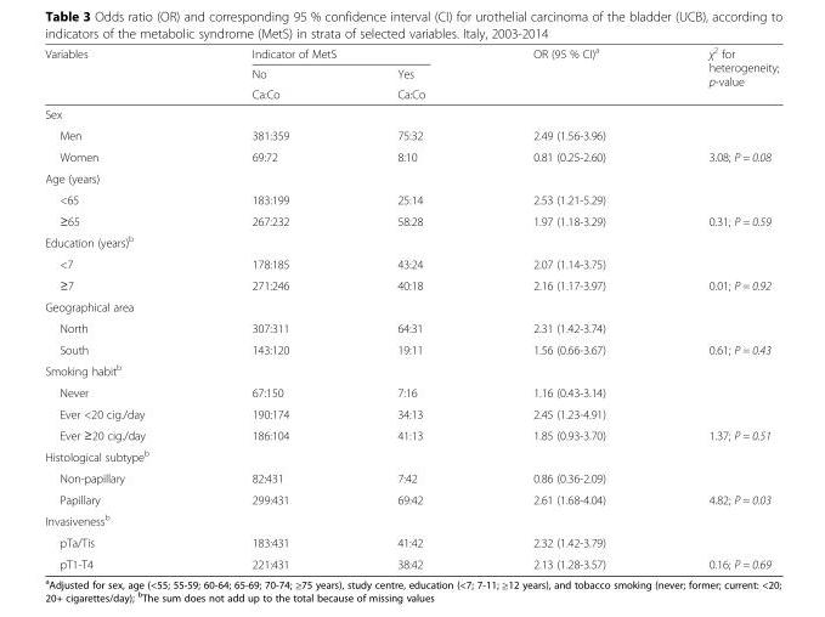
<table><thead><tr><td rowspan="3">Variables</td><td colspan="2">Indicator of MetS</td><td rowspan="3">OR (95 % CI)<sup>a</sup></td><td rowspan="3">χ<sup>2</sup> for heterogeneity; p-value</td></tr><tr><td rowspan="2">No Ca:Co</td><td rowspan="2">Yes Ca:Co</td></tr><tr></tr></thead><tbody><tr><td colspan="5">Sex</td></tr><tr><td>Men</td><td>381:359</td><td>75:32</td><td>2.49 (1.56-3.96)</td><td></td></tr><tr><td>Women</td><td>69:72</td><td>8:10</td><td>0.81 (0.25-2.60)</td><td>3.08; P = 0.08</td></tr><tr><td colspan="5">Age (years)</td></tr><tr><td>&lt;65</td><td>183:199</td><td>25:14</td><td>2.53 (1.21-5.29)</td><td></td></tr><tr><td>≥65</td><td>267:232</td><td>58:28</td><td>1.97 (1.18-3.29)</td><td>0.31; P = 0.59</td></tr><tr><td colspan="5">Education (years)<sup>b</sup></td></tr><tr><td>&lt;7</td><td>178:185</td><td>43:24</td><td>2.07 (1.14-3.75)</td><td></td></tr><tr><td>≥7</td><td>271:246</td><td>40:18</td><td>2.16 (1.17-3.97)</td><td>0.01; P = 0.92</td></tr><tr><td colspan="5">Geographical area</td></tr><tr><td>North</td><td>307:311</td><td>64:31</td><td>2.31 (1.42-3.74)</td><td></td></tr><tr><td>South</td><td>143:120</td><td>19:11</td><td>1.56 (0.66-3.67)</td><td>0.61; P = 0.43</td></tr><tr><td colspan="5">Smoking habit<sup>b</sup></td></tr><tr><td>Never</td><td>67:150</td><td>7:16</td><td>1.16 (0.43-3.14)</td><td></td></tr><tr><td>Ever &lt;20 cig./day</td><td>190:174</td><td>34:13</td><td>2.45 (1.23-4.91)</td><td></td></tr><tr><td>Ever ≥20 cig./day</td><td>186:104</td><td>41:13</td><td>1.85 (0.93-3.70)</td><td>1.37; P = 0.51</td></tr><tr><td colspan="5">Histological subtype<sup>b</sup></td></tr><tr><td>Non-papillary</td><td>82:431</td><td>7:42</td><td>0.86 (0.36-2.09)</td><td></td></tr><tr><td>Papillary</td><td>299:431</td><td>69:42</td><td>2.61 (1.68-4.04)</td><td>4.82; P = 0.03</td></tr><tr><td colspan="5">Invasiveness<sup>b</sup></td></tr><tr><td>pTa/Tis</td><td>183:431</td><td>41:42</td><td>2.32 (1.42-3.79)</td><td></td></tr><tr><td>pT1-T4</td><td>221:431</td><td>38:42</td><td>2.13 (1.28-3.57)</td><td>0.16; P = 0.69</td></tr></tbody></table>